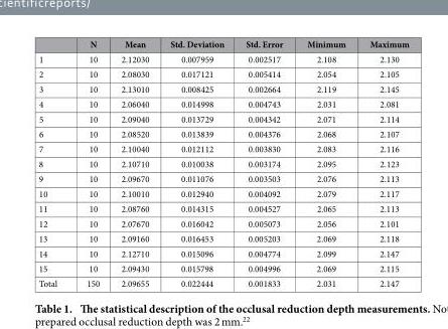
<table><thead><tr><td></td><td>N</td><td>Mean</td><td>Std. Deviation</td><td>Std. Error</td><td>Minimum</td><td>Maximum</td></tr></thead><tbody><tr><td>1</td><td>10</td><td>2.12030</td><td>0.007959</td><td>0.002517</td><td>2.108</td><td>2.130</td></tr><tr><td>2</td><td>10</td><td>2.08030</td><td>0.017121</td><td>0.005414</td><td>2.054</td><td>2.105</td></tr><tr><td>3</td><td>10</td><td>2.13010</td><td>0.008425</td><td>0.002664</td><td>2.119</td><td>2.145</td></tr><tr><td>4</td><td>10</td><td>2.06040</td><td>0.014998</td><td>0.004743</td><td>2.031</td><td>2.081</td></tr><tr><td>5</td><td>10</td><td>2.09040</td><td>0.013729</td><td>0.004342</td><td>2.071</td><td>2.114</td></tr><tr><td>6</td><td>10</td><td>2.08520</td><td>0.013839</td><td>0.004376</td><td>2.068</td><td>2.107</td></tr><tr><td>7</td><td>10</td><td>2.10040</td><td>0.012112</td><td>0.003830</td><td>2.083</td><td>2.116</td></tr><tr><td>8</td><td>10</td><td>2.10710</td><td>0.010038</td><td>0.003174</td><td>2.095</td><td>2.123</td></tr><tr><td>9</td><td>10</td><td>2.09670</td><td>0.011076</td><td>0.003503</td><td>2.076</td><td>2.113</td></tr><tr><td>10</td><td>10</td><td>2.10010</td><td>0.012940</td><td>0.004092</td><td>2.079</td><td>2.117</td></tr><tr><td>11</td><td>10</td><td>2.08760</td><td>0.014315</td><td>0.004527</td><td>2.065</td><td>2.113</td></tr><tr><td>12</td><td>10</td><td>2.07670</td><td>0.016042</td><td>0.005073</td><td>2.056</td><td>2.101</td></tr><tr><td>13</td><td>10</td><td>2.09160</td><td>0.016453</td><td>0.005203</td><td>2.069</td><td>2.118</td></tr><tr><td>14</td><td>10</td><td>2.12710</td><td>0.015096</td><td>0.004774</td><td>2.099</td><td>2.147</td></tr><tr><td>15</td><td>10</td><td>2.09430</td><td>0.015798</td><td>0.004996</td><td>2.069</td><td>2.115</td></tr><tr><td>Total</td><td>150</td><td>2.09655</td><td>0.022444</td><td>0.001833</td><td>2.031</td><td>2.147</td></tr></tbody></table>